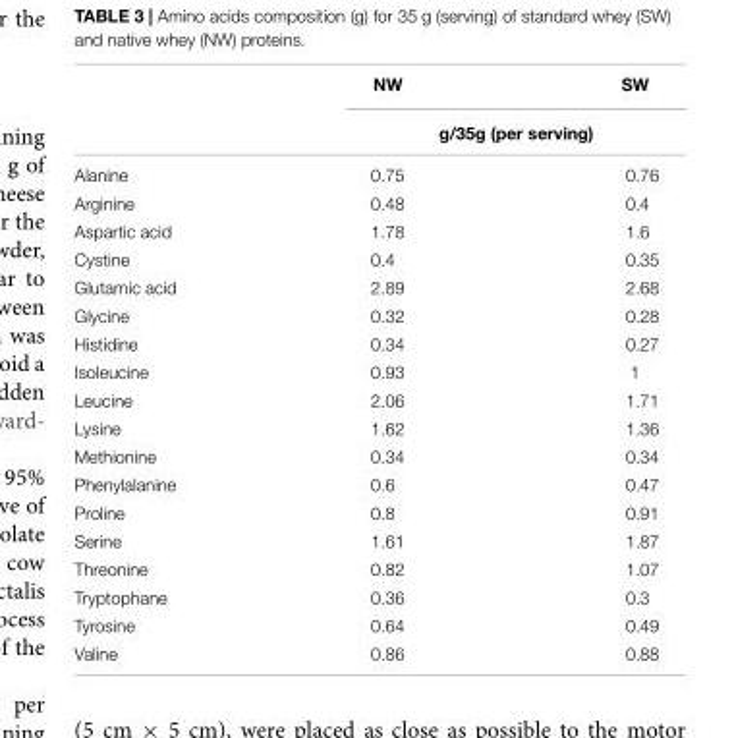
<table><thead><tr><td rowspan="2"></td><td>NW</td><td>SW</td></tr><tr><td colspan="2">g/35g (per serving)</td></tr></thead><tbody><tr><td>Alanine</td><td>0.75</td><td>0.76</td></tr><tr><td>Arginine</td><td>0.48</td><td>0.4</td></tr><tr><td>Aspartic acid</td><td>1.78</td><td>1.6</td></tr><tr><td>Cystine</td><td>0.4</td><td>0.35</td></tr><tr><td>Glutamic acid</td><td>2.89</td><td>2.68</td></tr><tr><td>Glycine</td><td>0.32</td><td>0.28</td></tr><tr><td>Histidine</td><td>0.34</td><td>0.27</td></tr><tr><td>Isoleucine</td><td>0.93</td><td>1</td></tr><tr><td>Leucine</td><td>2.06</td><td>1.71</td></tr><tr><td>Lysine</td><td>1.62</td><td>1.36</td></tr><tr><td>Methionine</td><td>0.34</td><td>0.34</td></tr><tr><td>Phenylalanine</td><td>0.6</td><td>0.47</td></tr><tr><td>Proline</td><td>0.8</td><td>0.91</td></tr><tr><td>Serine</td><td>1.61</td><td>1.87</td></tr><tr><td>Threonine</td><td>0.82</td><td>1.07</td></tr><tr><td>Tryptophane</td><td>0.36</td><td>0.3</td></tr><tr><td>Tyrosine</td><td>0.64</td><td>0.49</td></tr><tr><td>Valine</td><td>0.86</td><td>0.88</td></tr></tbody></table>